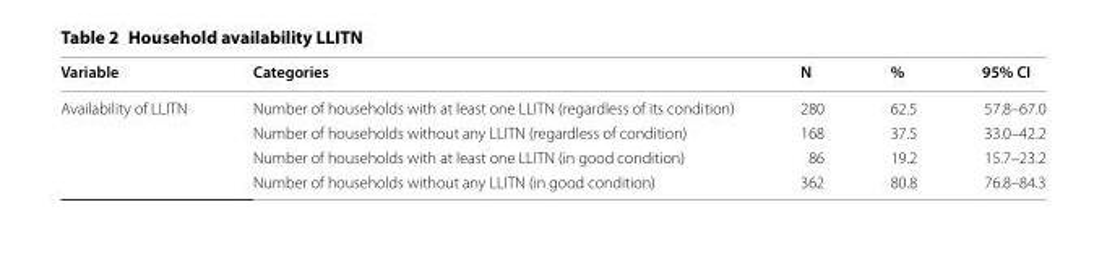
<table><thead><tr><td>Variable</td><td>Categories</td><td>N</td><td>%</td><td>95% CI</td></tr></thead><tbody><tr><td rowspan="4">Availability of LLITN</td><td>Number of households with at least one LLITN (regardless of its condition)</td><td>280</td><td>62.5</td><td>57.8–67.0</td></tr><tr><td>Number of households without any LLITN (regardless of condition)</td><td>168</td><td>37.5</td><td>33.0–42.2</td></tr><tr><td>Number of households with at least one LLITN (in good condition)</td><td>86</td><td>19.2</td><td>15.7–23.2</td></tr><tr><td>Number of households without any LLITN (in good condition)</td><td>362</td><td>80.8</td><td>76.8–84.3</td></tr></tbody></table>